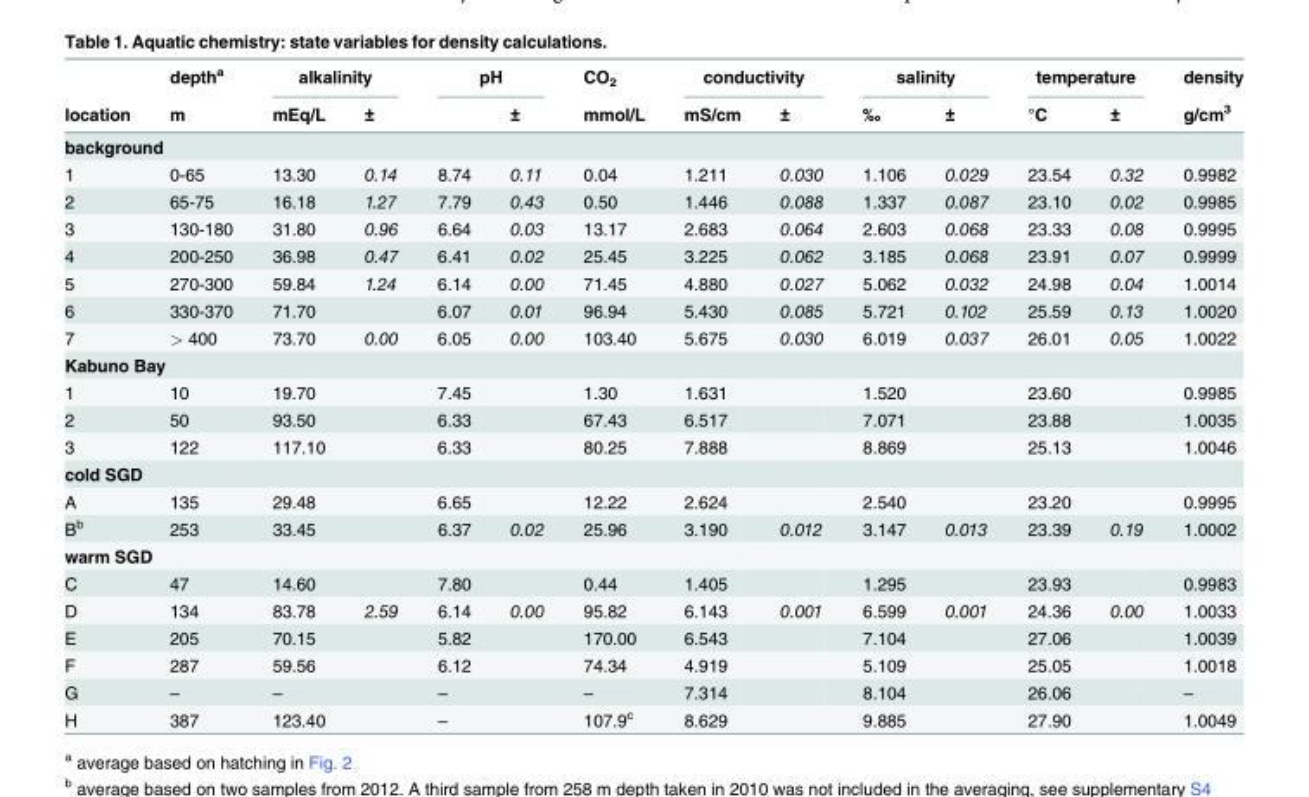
<table><thead><tr><td rowspan="2">location</td><td rowspan="2">depth<sup>a</sup> m</td><td colspan="2">alkalinity</td><td colspan="2">pH</td><td rowspan="2">CO<sub>2</sub> mmol/L</td><td colspan="2">conductivity</td><td colspan="2">salinity</td><td colspan="2">temperature</td><td rowspan="2">density g/cm<sup>3</sup></td></tr><tr><td>mEq/L</td><td>±</td><td></td><td>±</td><td>mS/cm</td><td>±</td><td>‰</td><td>±</td><td>°C</td><td>±</td></tr></thead><tbody><tr><td colspan="14">background</td></tr><tr><td>1</td><td>0-65</td><td>13.30</td><td>0.14</td><td>8.74</td><td>0.11</td><td>0.04</td><td>1.211</td><td>0.030</td><td>1.106</td><td>0.029</td><td>23.54</td><td>0.32</td><td>0.9982</td></tr><tr><td>2</td><td>65-75</td><td>16.18</td><td>1.27</td><td>7.79</td><td>0.43</td><td>0.50</td><td>1.446</td><td>0.088</td><td>1.337</td><td>0.087</td><td>23.10</td><td>0.02</td><td>0.9985</td></tr><tr><td>3</td><td>130-180</td><td>31.80</td><td>0.96</td><td>6.64</td><td>0.03</td><td>13.17</td><td>2.683</td><td>0.064</td><td>2.603</td><td>0.068</td><td>23.33</td><td>0.08</td><td>0.9995</td></tr><tr><td>4</td><td>200-250</td><td>36.98</td><td>0.47</td><td>6.41</td><td>0.02</td><td>25.45</td><td>3.225</td><td>0.062</td><td>3.185</td><td>0.068</td><td>23.91</td><td>0.07</td><td>0.9999</td></tr><tr><td>5</td><td>270-300</td><td>59.84</td><td>1.24</td><td>6.14</td><td>0.00</td><td>71.45</td><td>4.880</td><td>0.027</td><td>5.062</td><td>0.032</td><td>24.98</td><td>0.04</td><td>1.0014</td></tr><tr><td>6</td><td>330-370</td><td>71.70</td><td></td><td>6.07</td><td>0.01</td><td>96.94</td><td>5.430</td><td>0.085</td><td>5.721</td><td>0.102</td><td>25.59</td><td>0.13</td><td>1.0020</td></tr><tr><td>7</td><td>&gt; 400</td><td>73.70</td><td>0.00</td><td>6.05</td><td>0.00</td><td>103.40</td><td>5.675</td><td>0.030</td><td>6.019</td><td>0.037</td><td>26.01</td><td>0.05</td><td>1.0022</td></tr><tr><td colspan="14">Kabuno Bay</td></tr><tr><td>1</td><td>10</td><td>19.70</td><td></td><td>7.45</td><td></td><td>1.30</td><td>1.631</td><td></td><td>1.520</td><td></td><td>23.60</td><td></td><td>0.9985</td></tr><tr><td>2</td><td>50</td><td>93.50</td><td></td><td>6.33</td><td></td><td>67.43</td><td>6.517</td><td></td><td>7.071</td><td></td><td>23.88</td><td></td><td>1.0035</td></tr><tr><td>3</td><td>122</td><td>117.10</td><td></td><td>6.33</td><td></td><td>80.25</td><td>7.888</td><td></td><td>8.869</td><td></td><td>25.13</td><td></td><td>1.0046</td></tr><tr><td colspan="14">cold SGD</td></tr><tr><td>A</td><td>135</td><td>29.48</td><td></td><td>6.65</td><td></td><td>12.22</td><td>2.624</td><td></td><td>2.540</td><td></td><td>23.20</td><td></td><td>0.9995</td></tr><tr><td>B<sup>b</sup></td><td>253</td><td>33.45</td><td></td><td>6.37</td><td>0.02</td><td>25.96</td><td>3.190</td><td>0.012</td><td>3.147</td><td>0.013</td><td>23.39</td><td>0.19</td><td>1.0002</td></tr><tr><td colspan="14">warm SGD</td></tr><tr><td>C</td><td>47</td><td>14.60</td><td></td><td>7.80</td><td></td><td>0.44</td><td>1.405</td><td></td><td>1.295</td><td></td><td>23.93</td><td></td><td>0.9983</td></tr><tr><td>D</td><td>134</td><td>83.78</td><td>2.59</td><td>6.14</td><td>0.00</td><td>95.82</td><td>6.143</td><td>0.001</td><td>6.599</td><td>0.001</td><td>24.36</td><td>0.00</td><td>1.0033</td></tr><tr><td>E</td><td>205</td><td>70.15</td><td></td><td>5.82</td><td></td><td>170.00</td><td>6.543</td><td></td><td>7.104</td><td></td><td>27.06</td><td></td><td>1.0039</td></tr><tr><td>F</td><td>287</td><td>59.56</td><td></td><td>6.12</td><td></td><td>74.34</td><td>4.919</td><td></td><td>5.109</td><td></td><td>25.05</td><td></td><td>1.0018</td></tr><tr><td>G</td><td>–</td><td>–</td><td></td><td>–</td><td></td><td>–</td><td>7.314</td><td></td><td>8.104</td><td></td><td>26.06</td><td></td><td>–</td></tr><tr><td>H</td><td>387</td><td>123.40</td><td></td><td>–</td><td></td><td>107.9<sup>c</sup></td><td>8.629</td><td></td><td>9.885</td><td></td><td>27.90</td><td></td><td>1.0049</td></tr></tbody></table>